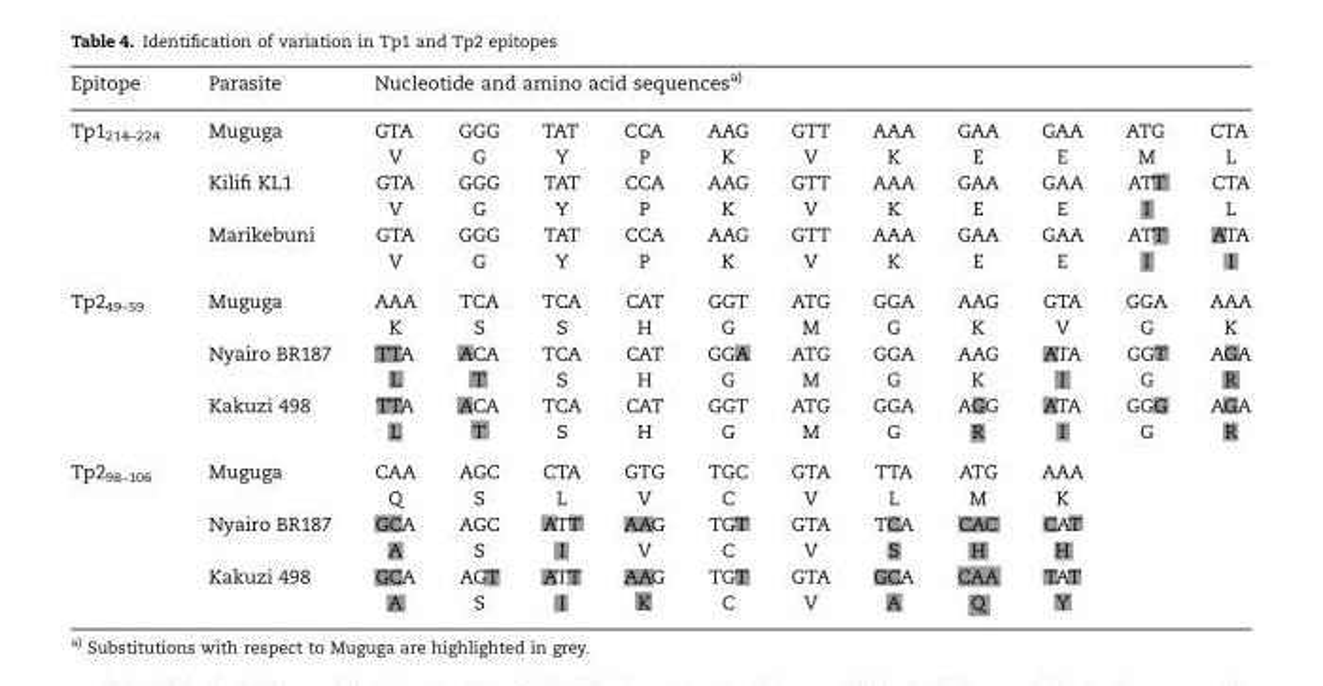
<table><thead><tr><td rowspan="2">Epitope Tp1<sub>214–224</sub></td><td rowspan="2">Parasite Muguga</td><td colspan="11">Nucleotide and amino acid sequencesa)</td></tr><tr><td>GTA</td><td>GGG</td><td>TAT</td><td>CCA</td><td>AAG</td><td>GTT</td><td>AAA</td><td>GAA</td><td>GAA</td><td>ATG</td><td>CTA</td></tr></thead><tbody><tr><td></td><td></td><td>V</td><td>G</td><td>Y</td><td>P</td><td>K</td><td>V</td><td>K</td><td>E</td><td>E</td><td>M</td><td>L</td></tr><tr><td></td><td>Kilifi KL1</td><td>GTA</td><td>GGG</td><td>TAT</td><td>CCA</td><td>AAG</td><td>GTT</td><td>AAA</td><td>GAA</td><td>GAA</td><td>ATT</td><td>CTA</td></tr><tr><td></td><td></td><td>V</td><td>G</td><td>Y</td><td>P</td><td>K</td><td>V</td><td>K</td><td>E</td><td>E</td><td>I</td><td>L</td></tr><tr><td></td><td>Marikebuni</td><td>GTA</td><td>GGG</td><td>TAT</td><td>CCA</td><td>AAG</td><td>GTT</td><td>AAA</td><td>GAA</td><td>GAA</td><td>ATT</td><td>ATA</td></tr><tr><td></td><td></td><td>V</td><td>G</td><td>Y</td><td>P</td><td>K</td><td>V</td><td>K</td><td>E</td><td>E</td><td>I</td><td>I</td></tr><tr><td rowspan="6">Tp2<sub>49–59</sub></td><td>Muguga</td><td>AAA</td><td>TCA</td><td>TCA</td><td>CAT</td><td>GGT</td><td>ATG</td><td>GGA</td><td>AAG</td><td>GTA</td><td>GGA</td><td>AAA</td></tr><tr><td></td><td>K</td><td>S</td><td>S</td><td>H</td><td>G</td><td>M</td><td>G</td><td>K</td><td>V</td><td>G</td><td>K</td></tr><tr><td>Nyairo BR187</td><td>TTA</td><td>ACA</td><td>TCA</td><td>CAT</td><td>GGA</td><td>ATG</td><td>GGA</td><td>AAG</td><td>ATA</td><td>GGT</td><td>AGA</td></tr><tr><td></td><td>L</td><td>T</td><td>S</td><td>H</td><td>G</td><td>M</td><td>G</td><td>K</td><td>I</td><td>G</td><td>R</td></tr><tr><td>Kakuzi 498</td><td>TTA</td><td>ACA</td><td>TCA</td><td>CAT</td><td>GGT</td><td>ATG</td><td>GGA</td><td>AGG</td><td>ATA</td><td>GGG</td><td>AGA</td></tr><tr><td></td><td>L</td><td>T</td><td>S</td><td>H</td><td>G</td><td>M</td><td>G</td><td>R</td><td>I</td><td>G</td><td>R</td></tr><tr><td rowspan="6">Tp2<sub>98–106</sub></td><td>Muguga</td><td>CAA</td><td>AGC</td><td>CTA</td><td>GTG</td><td>TGC</td><td>GTA</td><td>TTA</td><td>ATG</td><td>AAA</td><td></td><td></td></tr><tr><td></td><td>Q</td><td>S</td><td>L</td><td>V</td><td>C</td><td>V</td><td>L</td><td>M</td><td>K</td><td></td><td></td></tr><tr><td>Nyairo BR187</td><td>GCA</td><td>AGC</td><td>ATT</td><td>AAG</td><td>TGT</td><td>GTA</td><td>TCA</td><td>CAC</td><td>CAT</td><td></td><td></td></tr><tr><td></td><td>A</td><td>S</td><td>I</td><td>V</td><td>C</td><td>V</td><td>S</td><td>H</td><td>H</td><td></td><td></td></tr><tr><td>Kakuzi 498</td><td>GCA</td><td>AGT</td><td>ATT</td><td>AAG</td><td>TGT</td><td>GTA</td><td>GCA</td><td>CAA</td><td>TAT</td><td></td><td></td></tr><tr><td></td><td>A</td><td>S</td><td>I</td><td>K</td><td>C</td><td>V</td><td>A</td><td>Q</td><td>Y</td><td></td><td></td></tr></tbody></table>